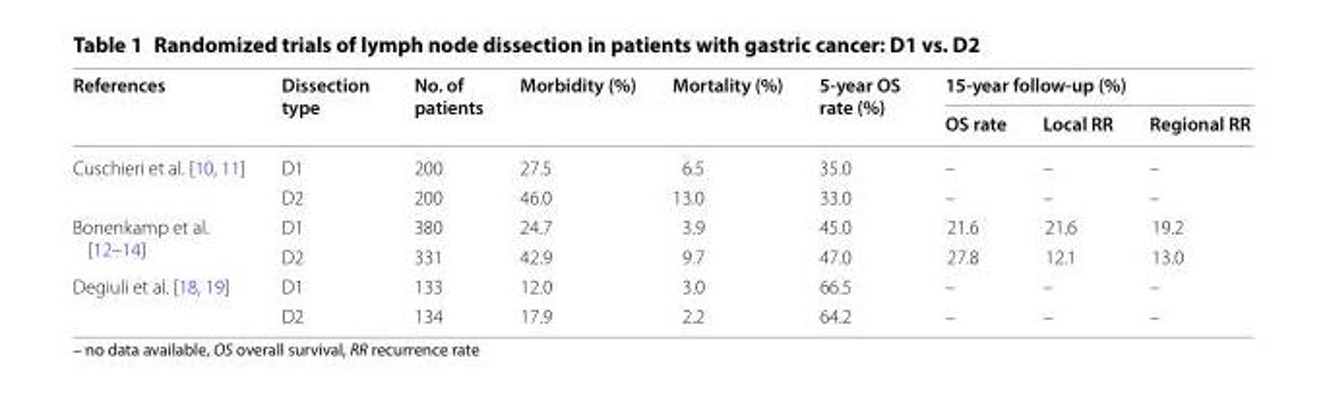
<table><thead><tr><td rowspan="2">References</td><td rowspan="2">Dissection type</td><td rowspan="2">No. of patients</td><td rowspan="2">Morbidity (%)</td><td rowspan="2">Mortality (%)</td><td rowspan="2">5-year OS rate (%)</td><td colspan="3">15-year follow-up (%)</td></tr><tr><td>OS rate</td><td>Local RR</td><td>Regional RR</td></tr></thead><tbody><tr><td rowspan="2">Cuschieri et al. [10, 11]</td><td>D1</td><td>200</td><td>27.5</td><td>6.5</td><td>35.0</td><td>–</td><td>–</td><td>–</td></tr><tr><td>D2</td><td>200</td><td>46.0</td><td>13.0</td><td>33.0</td><td>–</td><td>–</td><td>–</td></tr><tr><td rowspan="2">Bonenkamp et al. [12–14]</td><td>D1</td><td>380</td><td>24.7</td><td>3.9</td><td>45.0</td><td>21.6</td><td>21.6</td><td>19.2</td></tr><tr><td>D2</td><td>331</td><td>42.9</td><td>9.7</td><td>47.0</td><td>27.8</td><td>12.1</td><td>13.0</td></tr><tr><td rowspan="2">Degiuli et al. [18, 19]</td><td>D1</td><td>133</td><td>12.0</td><td>3.0</td><td>66.5</td><td>–</td><td>–</td><td>–</td></tr><tr><td>D2</td><td>134</td><td>17.9</td><td>2.2</td><td>64.2</td><td>–</td><td>–</td><td>–</td></tr></tbody></table>